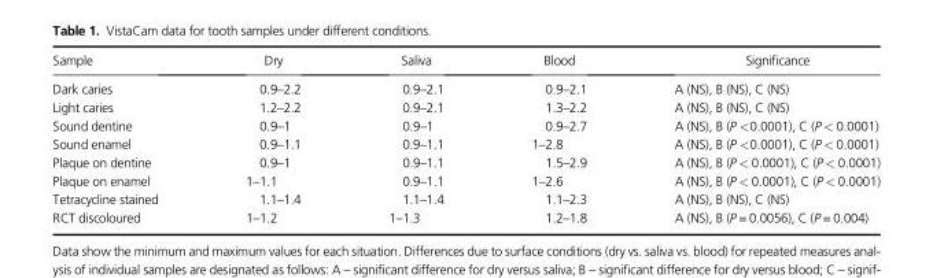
<table><thead><tr><td>Sample</td><td>Dry</td><td>Saliva</td><td>Blood</td><td>Significance</td></tr></thead><tbody><tr><td>Dark caries</td><td>0.9–2.2</td><td>0.9–2.1</td><td>0.9–2.1</td><td>A (NS), B (NS), C (NS)</td></tr><tr><td>Light caries</td><td>1.2–2.2</td><td>0.9–2.1</td><td>1.3–2.2</td><td>A (NS), B (NS), C (NS)</td></tr><tr><td>Sound dentine</td><td>0.9–1</td><td>0.9–1</td><td>0.9–2.7</td><td>A (NS), B (P &lt;0.0001), C (P &lt; 0.0001)</td></tr><tr><td>Sound enamel</td><td>0.9–1.1</td><td>0.9–1.1</td><td>1–2.8</td><td>A (NS), B (P &lt;0.0001), C (P &lt; 0.0001)</td></tr><tr><td>Plaque on dentine</td><td>0.9–1</td><td>0.9–1.1</td><td>1.5–2.9</td><td>A (NS), B (P &lt; 0.0001), C (P &lt; 0.0001)</td></tr><tr><td>Plaque on enamel</td><td>1–1.1</td><td>0.9–1.1</td><td>1–2.6</td><td>A (NS), B (P &lt; 0.0001), C (P &lt; 0.0001)</td></tr><tr><td>Tetracycline stained</td><td>1.1–1.4</td><td>1.1–1.4</td><td>1.1–2.3</td><td>A (NS), B (NS), C (NS)</td></tr><tr><td>RCT discoloured</td><td>1–1.2</td><td>1–1.3</td><td>1.2–1.8</td><td>A (NS), B (P = 0.0056), C (P = 0.004)</td></tr></tbody></table>